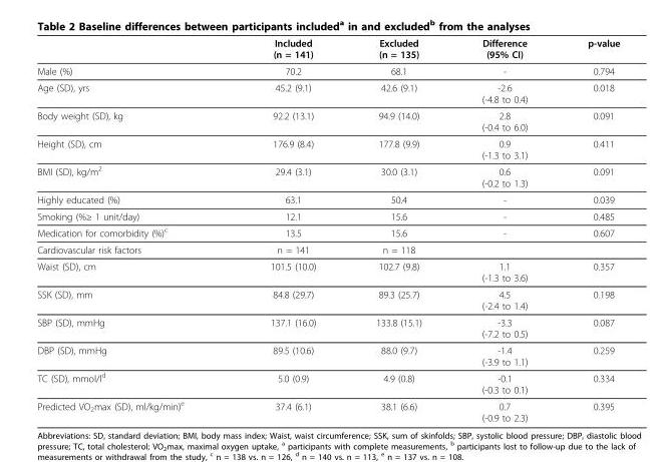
<table><thead><tr><td></td><td>Included (n = 141)</td><td>Excluded (n = 135)</td><td>Difference (95% CI)</td><td>p-value</td></tr></thead><tbody><tr><td>Male (%)</td><td>70.2</td><td>68.1</td><td>-</td><td>0.794</td></tr><tr><td>Age (SD), yrs</td><td>45.2 (9.1)</td><td>42.6 (9.1)</td><td>-2.6 (-4.8 to 0.4)</td><td>0.018</td></tr><tr><td>Body weight (SD), kg</td><td>92.2 (13.1)</td><td>94.9 (14.0)</td><td>2.8 (-0.4 to 6.0)</td><td>0.091</td></tr><tr><td>Height (SD), cm</td><td>176.9 (8.4)</td><td>177.8 (9.9)</td><td>0.9 (-1.3 to 3.1)</td><td>0.411</td></tr><tr><td>BMI (SD), kg/m<sup>2</sup></td><td>29.4 (3.1)</td><td>30.0 (3.1)</td><td>0.6 (-0.2 to 1.3)</td><td>0.091</td></tr><tr><td>Highly educated (%)</td><td>63.1</td><td>50.4</td><td>-</td><td>0.039</td></tr><tr><td>Smoking (%≥ 1 unit/day)</td><td>12.1</td><td>15.6</td><td>-</td><td>0.485</td></tr><tr><td>Medication for comorbidity (%)<sup>c</sup></td><td>13.5</td><td>15.6</td><td>-</td><td>0.607</td></tr><tr><td>Cardiovascular risk factors</td><td>n = 141</td><td>n = 118</td><td></td><td></td></tr><tr><td>Waist (SD), cm</td><td>101.5 (10.0)</td><td>102.7 (9.8)</td><td>1.1 (-1.3 to 3.6)</td><td>0.357</td></tr><tr><td>SSK (SD), mm</td><td>84.8 (29.7)</td><td>89.3 (25.7)</td><td>4.5 (-2.4 to 1.4)</td><td>0.198</td></tr><tr><td>SBP (SD), mmHg</td><td>137.1 (16.0)</td><td>133.8 (15.1)</td><td>-3.3 (-7.2 to 0.5)</td><td>0.087</td></tr><tr><td>DBP (SD), mmHg</td><td>89.5 (10.6)</td><td>88.0 (9.7)</td><td>-1.4 (-3.9 to 1.1)</td><td>0.259</td></tr><tr><td>TC (SD), mmol/l<sup>d</sup></td><td>5.0 (0.9)</td><td>4.9 (0.8)</td><td>-0.1 (-0.3 to 0.1)</td><td>0.334</td></tr><tr><td>Predicted VO<sub>2</sub>max (SD), ml/kg/min)<sup>e</sup></td><td>37.4 (6.1)</td><td>38.1 (6.6)</td><td>0.7 (-0.9 to 2.3)</td><td>0.395</td></tr></tbody></table>